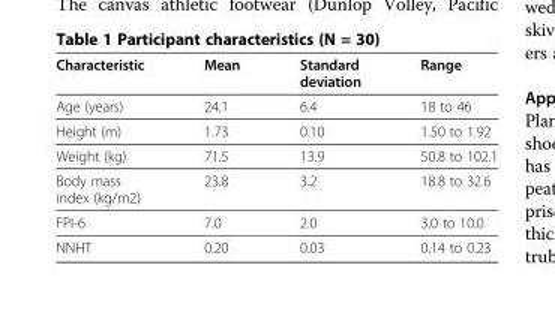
<table><thead><tr><td>Characteristic</td><td>Mean</td><td>Standard deviation</td><td>Range</td></tr></thead><tbody><tr><td>Age (years)</td><td>24.1</td><td>6.4</td><td>18 to 46</td></tr><tr><td>Height (m)</td><td>1.73</td><td>0.10</td><td>1.50 to 1.92</td></tr><tr><td>Weight (kg)</td><td>71.5</td><td>13.9</td><td>50.8 to 102.1</td></tr><tr><td>Body mass index (kg/m2)</td><td>23.8</td><td>3.2</td><td>18.8 to 32.6</td></tr><tr><td>FPI-6</td><td>7.0</td><td>2.0</td><td>3.0 to 10.0</td></tr><tr><td>NNHT</td><td>0.20</td><td>0.03</td><td>0.14 to 0.23</td></tr></tbody></table>